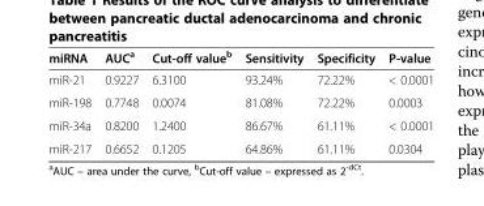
<table><thead><tr><td>miRNA</td><td>AUC<sup>a</sup></td><td>Cut-off value<sup>b</sup></td><td>Sensitivity</td><td>Specificity</td><td>P-value</td></tr></thead><tbody><tr><td>miR-21</td><td>0.9227</td><td>6.3100</td><td>93.24%</td><td>72.22%</td><td>&lt; 0.0001</td></tr><tr><td>miR-198</td><td>0.7748</td><td>0.0074</td><td>81.08%</td><td>72.22%</td><td>0.0003</td></tr><tr><td>miR-34a</td><td>0.8200</td><td>1.2400</td><td>86.67%</td><td>61.11%</td><td>&lt; 0.0001</td></tr><tr><td>miR-217</td><td>0.6652</td><td>0.1205</td><td>64.86%</td><td>61.11%</td><td>0.0304</td></tr></tbody></table>